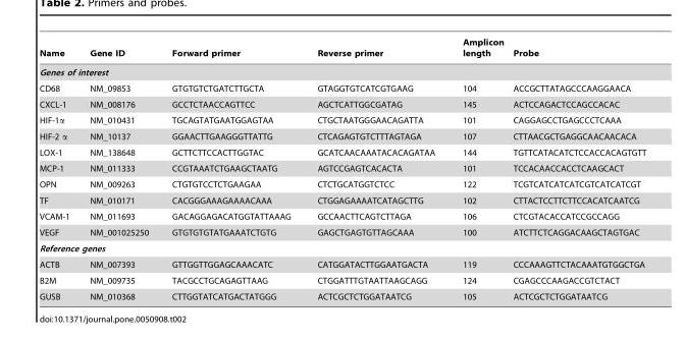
<table><thead><tr><td>Name</td><td>Gene ID</td><td>Forward primer</td><td>Reverse primer</td><td>Amplicon length</td><td>Probe</td></tr></thead><tbody><tr><td colspan="6">Genes of interest</td></tr><tr><td>CD68</td><td>NM_09853</td><td>GTGTGTCTGATCTTGCTA</td><td>GTAGGTGTCATCGTGAAG</td><td>104</td><td>ACCGCTTATAGCCCAAGGAACA</td></tr><tr><td>CXCL-1</td><td>NM_008176</td><td>GCCTCTAACCAGTTCC</td><td>AGCTCATTGGCGATAG</td><td>145</td><td>ACTCCAGACTCCAGCCACAC</td></tr><tr><td>HIF-1α</td><td>NM_010431</td><td>TGCAGTATGAATGGAGTAA</td><td>CTGCTAATGGGAACAGATTA</td><td>101</td><td>CAGGAGCCTGAGCCCTCAAA</td></tr><tr><td>HIF-2 α</td><td>NM_10137</td><td>GGAACTTGAAGGGTTATTG</td><td>CTCAGAGTGTCTTTAGTAGA</td><td>107</td><td>CTTAACGCTGAGGCAACAACACA</td></tr><tr><td>LOX-1</td><td>NM_138648</td><td>GCTTCTTCCACTTGGTAC</td><td>GCATCAACAAATACACAGATAA</td><td>144</td><td>TGTTCATACATCTCCACCACAGTGTT</td></tr><tr><td>MCP-1</td><td>NM_011333</td><td>CCGTAAATCTGAAGCTAATG</td><td>AGTCCGAGTCACACTA</td><td>101</td><td>TCCACAACCACCTCAAGCACT</td></tr><tr><td>OPN</td><td>NM_009263</td><td>CTGTGTCCTCTGAAGAA</td><td>CTCTGCATGGTCTCC</td><td>122</td><td>TCGTCATCATCATCGTCATCATCGT</td></tr><tr><td>TF</td><td>NM_010171</td><td>CACGGGAAAGAAAACAAA</td><td>CTGGAGAAAATCATAGCTTG</td><td>102</td><td>CTTACTCCTTCTTCCACATCAATCG</td></tr><tr><td>VCAM-1</td><td>NM_011693</td><td>GACAGGAGACATGGTATTAAAG</td><td>GCCAACTTCAGTCTTAGA</td><td>106</td><td>CTCGTACACCATCCGCCAGG</td></tr><tr><td>VEGF</td><td>NM_001025250</td><td>GTGTGTGTATGAAATCTGTG</td><td>GAGCTGAGTGTTAGCAAA</td><td>100</td><td>ATCTTCTCAGGACAAGCTAGTGAC</td></tr><tr><td colspan="6">Reference genes</td></tr><tr><td>ACTB</td><td>NM_007393</td><td>GTTGGTTGGAGCAAACATC</td><td>CATGGATACTTGGAATGACTA</td><td>119</td><td>CCCAAAGTTCTACAAATGTGGCTGA</td></tr><tr><td>B2M</td><td>NM_009735</td><td>TACGCCTGCAGAGTTAAG</td><td>CTGGATTTGTAATTAAGCAGG</td><td>124</td><td>CGAGCCCAAGACCGTCTACT</td></tr><tr><td>GUSB</td><td>NM_010368</td><td>CTTGGTATCATGACTATGGG</td><td>ACTCGCTCTGGATAATCG</td><td>105</td><td>ACTCGCTCTGGATAATCG</td></tr></tbody></table>